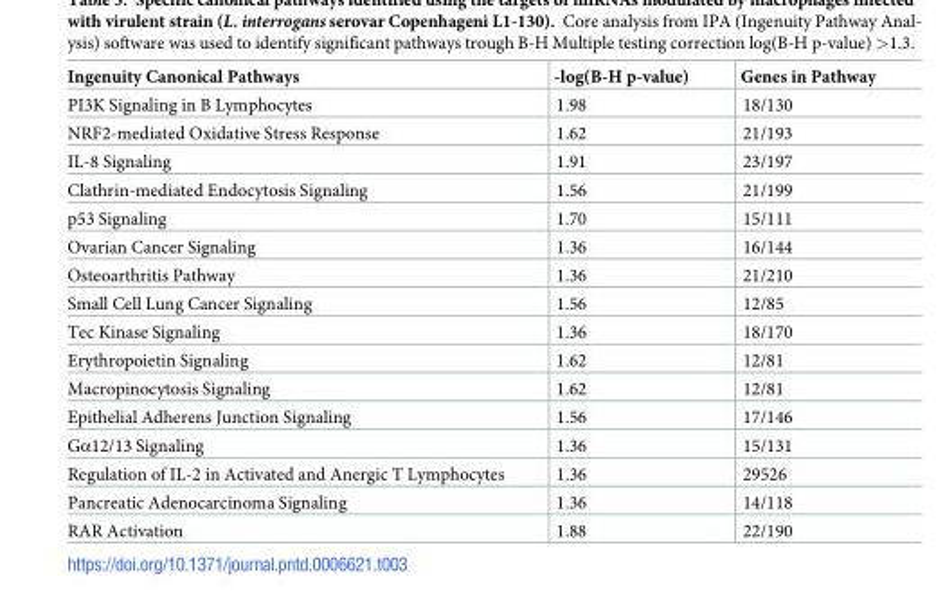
<table><thead><tr><td>Ingenuity Canonical Pathways</td><td>-log(B-H p-value)</td><td>Genes in Pathway</td></tr></thead><tbody><tr><td>PI3K Signaling in B Lymphocytes</td><td>1.98</td><td>18/130</td></tr><tr><td>NRF2-mediated Oxidative Stress Response</td><td>1.62</td><td>21/193</td></tr><tr><td>IL-8 Signaling</td><td>1.91</td><td>23/197</td></tr><tr><td>Clathrin-mediated Endocytosis Signaling</td><td>1.56</td><td>21/199</td></tr><tr><td>p53 Signaling</td><td>1.70</td><td>15/111</td></tr><tr><td>Ovarian Cancer Signaling</td><td>1.36</td><td>16/144</td></tr><tr><td>Osteoarthritis Pathway</td><td>1.36</td><td>21/210</td></tr><tr><td>Small Cell Lung Cancer Signaling</td><td>1.56</td><td>12/85</td></tr><tr><td>Tec Kinase Signaling</td><td>1.36</td><td>18/170</td></tr><tr><td>Erythropoietin Signaling</td><td>1.62</td><td>12/81</td></tr><tr><td>Macropinocytosis Signaling</td><td>1.62</td><td>12/81</td></tr><tr><td>Epithelial Adherens Junction Signaling</td><td>1.56</td><td>17/146</td></tr><tr><td>Gα12/13 Signaling</td><td>1.36</td><td>15/131</td></tr><tr><td>Regulation of IL-2 in Activated and Anergic T Lymphocytes</td><td>1.36</td><td>29526</td></tr><tr><td>Pancreatic Adenocarcinoma Signaling</td><td>1.36</td><td>14/118</td></tr><tr><td>RAR Activation</td><td>1.88</td><td>22/190</td></tr></tbody></table>